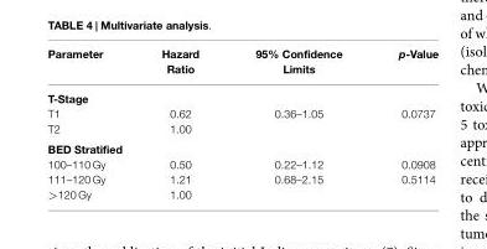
<table><thead><tr><td>Parameter</td><td>Hazard Ratio</td><td>95% Confidence Limits</td><td>p-Value</td></tr></thead><tbody><tr><td colspan="4">T-Stage</td></tr><tr><td>T1</td><td>0.62</td><td>0.36–1.05</td><td>0.0737</td></tr><tr><td>T2</td><td>1.00</td><td></td><td></td></tr><tr><td colspan="4">BED Stratified</td></tr><tr><td>100–110 Gy</td><td>0.50</td><td>0.22–1.12</td><td>0.0908</td></tr><tr><td>111–120 Gy</td><td>1.21</td><td>0.68–2.15</td><td>0.5114</td></tr><tr><td>&gt;120 Gy</td><td>1.00</td><td></td><td></td></tr></tbody></table>